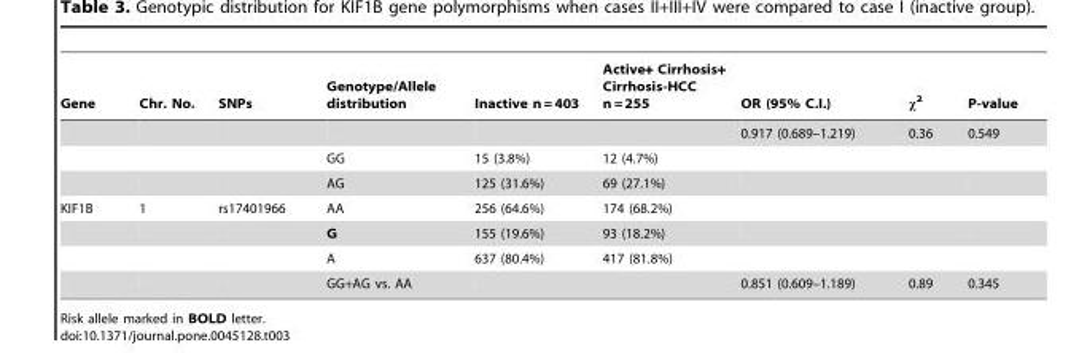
<table><thead><tr><td>Gene</td><td>Chr. No.</td><td>SNPs</td><td>Genotype/Allele distribution</td><td>Inactive n = 403</td><td>Active+ Cirrhosis+ Cirrhosis-HCC n = 255</td><td>OR (95% C.I.)</td><td>x2</td><td>P-value</td></tr></thead><tbody><tr><td></td><td></td><td></td><td></td><td></td><td></td><td>0.917 (0.689–1.219)</td><td>0.36</td><td>0.549</td></tr><tr><td></td><td></td><td></td><td>GG</td><td>15 (3.8%)</td><td>12 (4.7%)</td><td></td><td></td><td></td></tr><tr><td></td><td></td><td></td><td>AG</td><td>125 (31.6%)</td><td>69 (27.1%)</td><td></td><td></td><td></td></tr><tr><td rowspan="4">KIF1B</td><td>1</td><td>rs17401966</td><td>AA</td><td>256 (64.6%)</td><td>174 (68.2%)</td><td></td><td></td><td></td></tr><tr><td></td><td></td><td>G</td><td>155 (19.6%)</td><td>93 (18.2%)</td><td></td><td></td><td></td></tr><tr><td></td><td></td><td>A</td><td>637 (80.4%)</td><td>417 (81.8%)</td><td></td><td></td><td></td></tr><tr><td></td><td></td><td>GG+AG vs. AA</td><td></td><td></td><td>0.851 (0.609–1.189)</td><td>0.89</td><td>0.345</td></tr></tbody></table>